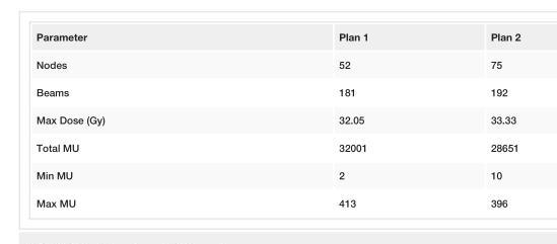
<table><tbody><tr><td>Parameter</td><td>Plan 1</td><td>Plan 2</td></tr><tr><td>Nodes</td><td>52</td><td>75</td></tr><tr><td>Beams</td><td>181</td><td>192</td></tr><tr><td>Max Dose (Gy)</td><td>32.05</td><td>33.33</td></tr><tr><td>Total MU</td><td>32001</td><td>28651</td></tr><tr><td>Min MU</td><td>2</td><td>10</td></tr><tr><td>Max MU</td><td>413</td><td>396</td></tr></tbody></table>